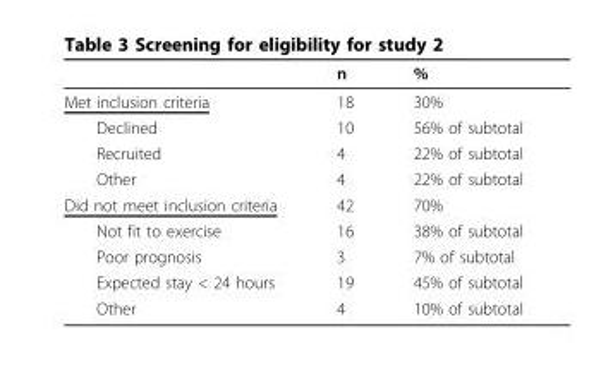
<table><thead><tr><td></td><td>n</td><td>%</td></tr></thead><tbody><tr><td>Met inclusion criteria</td><td>18</td><td>30%</td></tr><tr><td>Declined</td><td>10</td><td>56% of subtotal</td></tr><tr><td>Recruited</td><td>4</td><td>22% of subtotal</td></tr><tr><td>Other</td><td>4</td><td>22% of subtotal</td></tr><tr><td>Did not meet inclusion criteria</td><td>42</td><td>70%</td></tr><tr><td>Not fit to exercise</td><td>16</td><td>38% of subtotal</td></tr><tr><td>Poor prognosis</td><td>3</td><td>7% of subtotal</td></tr><tr><td>Expected stay &lt; 24 hours</td><td>19</td><td>45% of subtotal</td></tr><tr><td>Other</td><td>4</td><td>10% of subtotal</td></tr></tbody></table>